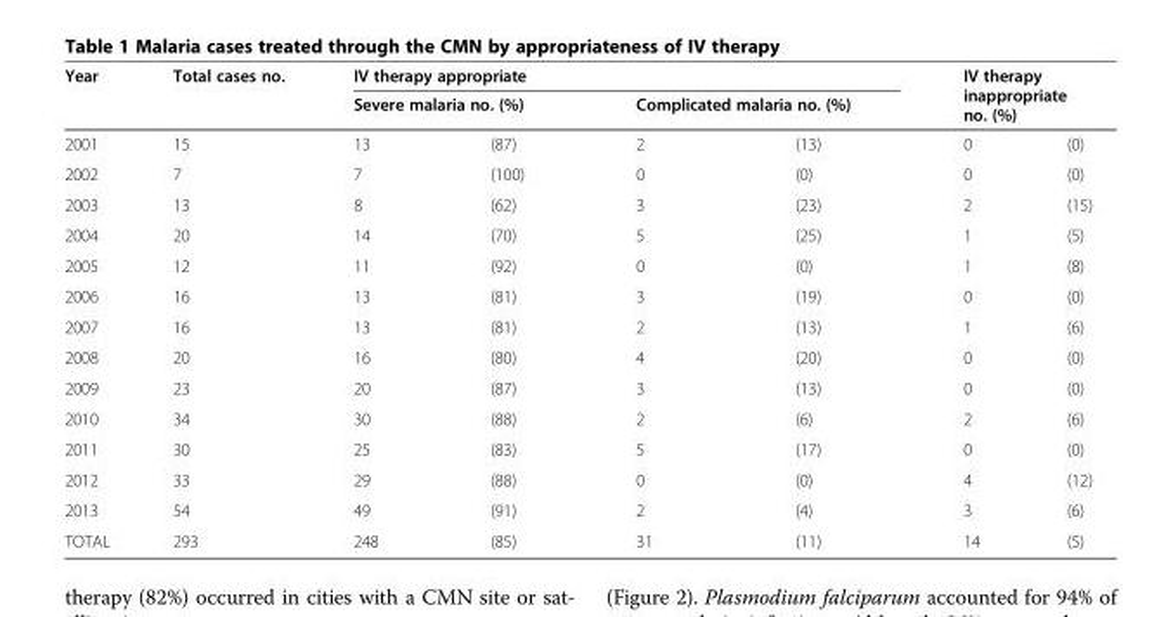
<table><thead><tr><td rowspan="3">Year 2001</td><td rowspan="3">Total cases no. 15</td><td colspan="4">IV therapy appropriate</td><td rowspan="2" colspan="2">IV therapy inappropriate no. (%)</td></tr><tr><td colspan="2">Severe malaria no. (%)</td><td colspan="2">Complicated malaria no. (%)</td></tr><tr><td>13</td><td>(87)</td><td>2</td><td>(13)</td><td>0</td><td>(0)</td></tr></thead><tbody><tr><td>2002</td><td>7</td><td>7</td><td>(100)</td><td>0</td><td>(0)</td><td>0</td><td>(0)</td></tr><tr><td>2003</td><td>13</td><td>8</td><td>(62)</td><td>3</td><td>(23)</td><td>2</td><td>(15)</td></tr><tr><td>2004</td><td>20</td><td>14</td><td>(70)</td><td>5</td><td>(25)</td><td>1</td><td>(5)</td></tr><tr><td>2005</td><td>12</td><td>11</td><td>(92)</td><td>0</td><td>(0)</td><td>1</td><td>(8)</td></tr><tr><td>2006</td><td>16</td><td>13</td><td>(81)</td><td>3</td><td>(19)</td><td>0</td><td>(0)</td></tr><tr><td>2007</td><td>16</td><td>13</td><td>(81)</td><td>2</td><td>(13)</td><td>1</td><td>(6)</td></tr><tr><td>2008</td><td>20</td><td>16</td><td>(80)</td><td>4</td><td>(20)</td><td>0</td><td>(0)</td></tr><tr><td>2009</td><td>23</td><td>20</td><td>(87)</td><td>3</td><td>(13)</td><td>0</td><td>(0)</td></tr><tr><td>2010</td><td>34</td><td>30</td><td>(88)</td><td>2</td><td>(6)</td><td>2</td><td>(6)</td></tr><tr><td>2011</td><td>30</td><td>25</td><td>(83)</td><td>5</td><td>(17)</td><td>0</td><td>(0)</td></tr><tr><td>2012</td><td>33</td><td>29</td><td>(88)</td><td>0</td><td>(0)</td><td>4</td><td>(12)</td></tr><tr><td>2013</td><td>54</td><td>49</td><td>(91)</td><td>2</td><td>(4)</td><td>3</td><td>(6)</td></tr><tr><td>TOTAL</td><td>293</td><td>248</td><td>(85)</td><td>31</td><td>(11)</td><td>14</td><td>(5)</td></tr></tbody></table>